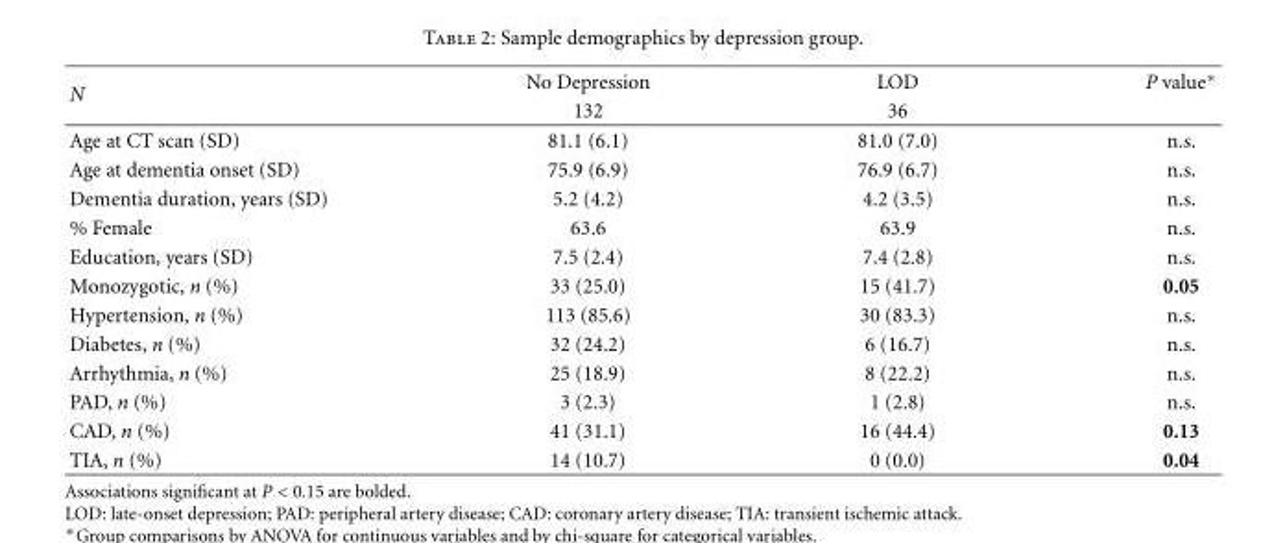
<table><tbody><tr><td rowspan="2">N</td><td>No Depression</td><td>LOD</td><td>P value∗</td></tr><tr><td>132</td><td>36</td><td></td></tr><tr><td>Age at CT scan (SD)</td><td>81.1 (6.1)</td><td>81.0 (7.0)</td><td>n.s.</td></tr><tr><td>Age at dementia onset (SD)</td><td>75.9 (6.9)</td><td>76.9 (6.7)</td><td>n.s.</td></tr><tr><td>Dementia duration, years (SD)</td><td>5.2 (4.2)</td><td>4.2 (3.5)</td><td>n.s.</td></tr><tr><td>% Female</td><td>63.6</td><td>63.9</td><td>n.s.</td></tr><tr><td>Education, years (SD)</td><td>7.5 (2.4)</td><td>7.4 (2.8)</td><td>n.s.</td></tr><tr><td>Monozygotic, n (%)</td><td>33 (25.0)</td><td>15 (41.7)</td><td>0.05</td></tr><tr><td>Hypertension, n (%)</td><td>113 (85.6)</td><td>30 (83.3)</td><td>n.s.</td></tr><tr><td>Diabetes, n (%)</td><td>32 (24.2)</td><td>6 (16.7)</td><td>n.s.</td></tr><tr><td>Arrhythmia, n (%)</td><td>25 (18.9)</td><td>8 (22.2)</td><td>n.s.</td></tr><tr><td>PAD, n (%)</td><td>3 (2.3)</td><td>1 (2.8)</td><td>n.s.</td></tr><tr><td>CAD, n (%)</td><td>41 (31.1)</td><td>16 (44.4)</td><td>0.13</td></tr><tr><td>TIA, n (%)</td><td>14 (10.7)</td><td>0 (0.0)</td><td>0.04</td></tr></tbody></table>